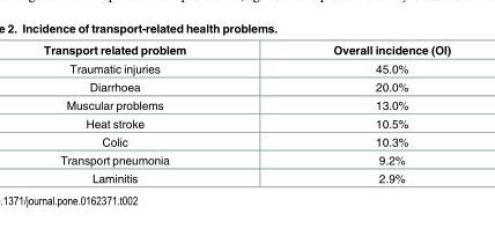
<table><thead><tr><td>Transport related problem</td><td>Overall incidence (OI)</td></tr></thead><tbody><tr><td>Traumatic injuries</td><td>45.0%</td></tr><tr><td>Diarrhoea</td><td>20.0%</td></tr><tr><td>Muscular problems</td><td>13.0%</td></tr><tr><td>Heat stroke</td><td>10.5%</td></tr><tr><td>Colic</td><td>10.3%</td></tr><tr><td>Transport pneumonia</td><td>9.2%</td></tr><tr><td>Laminitis</td><td>2.9%</td></tr></tbody></table>